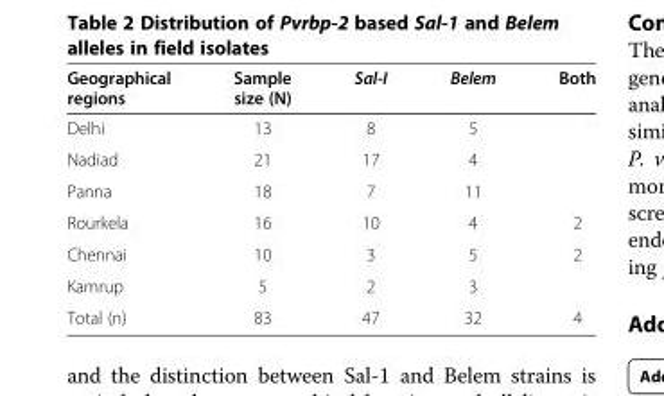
<table><thead><tr><td>Geographical regions</td><td>Sample size (N)</td><td>Sal-I</td><td>Belem</td><td>Both</td></tr></thead><tbody><tr><td>Delhi</td><td>13</td><td>8</td><td>5</td><td></td></tr><tr><td>Nadiad</td><td>21</td><td>17</td><td>4</td><td></td></tr><tr><td>Panna</td><td>18</td><td>7</td><td>11</td><td></td></tr><tr><td>Rourkela</td><td>16</td><td>10</td><td>4</td><td>2</td></tr><tr><td>Chennai</td><td>10</td><td>3</td><td>5</td><td>2</td></tr><tr><td>Kamrup</td><td>5</td><td>2</td><td>3</td><td></td></tr><tr><td>Total (n)</td><td>83</td><td>47</td><td>32</td><td>4</td></tr></tbody></table>